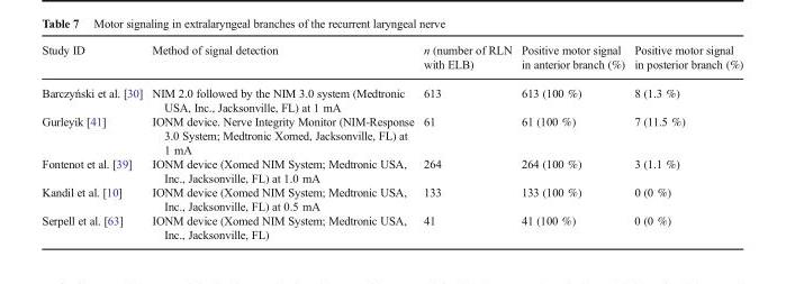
<table><thead><tr><td>Study ID</td><td>Method of signal detection</td><td>n (number of RLN with ELB)</td><td>Positive motor signal in anterior branch (%)</td><td>Positive motor signal in posterior branch (%)</td></tr></thead><tbody><tr><td>Barczyński et al. [30]</td><td>NIM 2.0 followed by the NIM 3.0 system (Medtronic USA, Inc., Jacksonville, FL) at 1 mA</td><td>613</td><td>613 (100 %)</td><td>8 (1.3 %)</td></tr><tr><td>Gurleyik [41]</td><td>IONM device. Nerve Integrity Monitor (NIM-Response 3.0 System; Medtronic Xomed, Jacksonville, FL) at 1 mA</td><td>61</td><td>61 (100 %)</td><td>7 (11.5 %)</td></tr><tr><td>Fontenot et al. [39]</td><td>IONM device (Xomed NIM System; Medtronic USA, Inc., Jacksonville, FL) at 1.0 mA</td><td>264</td><td>264 (100 %)</td><td>3 (1.1 %)</td></tr><tr><td>Kandil et al. [10]</td><td>IONM device (Xomed NIM System; Medtronic USA, Inc., Jacksonville, FL) at 0.5 mA</td><td>133</td><td>133 (100 %)</td><td>0 (0 %)</td></tr><tr><td>Serpell et al. [63]</td><td>IONM device (Xomed NIM System; Medtronic USA, Inc., Jacksonville, FL)</td><td>41</td><td>41 (100 %)</td><td>0 (0 %)</td></tr></tbody></table>